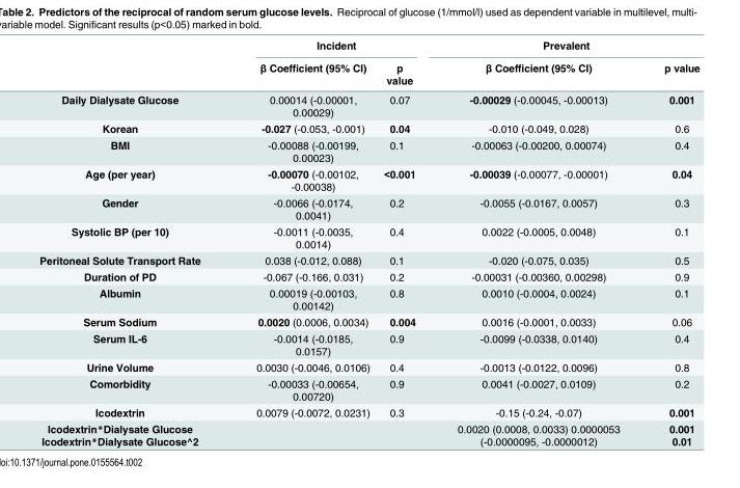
<table><thead><tr><td rowspan="2"></td><td colspan="2">Incident</td><td colspan="2">Prevalent</td></tr><tr><td>β Coefficient (95% CI)</td><td>p value</td><td>β Coefficient (95% CI)</td><td>p value</td></tr></thead><tbody><tr><td>Daily Dialysate Glucose</td><td>0.00014 (-0.00001, 0.00029)</td><td>0.07</td><td>-0.00029 (-0.00045, -0.00013)</td><td>0.001</td></tr><tr><td>Korean</td><td>-0.027 (-0.053, -0.001)</td><td>0.04</td><td>-0.010 (-0.049, 0.028)</td><td>0.6</td></tr><tr><td>BMI</td><td>-0.00088 (-0.00199, 0.00023)</td><td>0.1</td><td>-0.00063 (-0.00200, 0.00074)</td><td>0.4</td></tr><tr><td>Age (per year)</td><td>-0.00070 (-0.00102, -0.00038)</td><td>&lt;0.001</td><td>-0.00039 (-0.00077, -0.00001)</td><td>0.04</td></tr><tr><td>Gender</td><td>-0.0066 (-0.0174, 0.0041)</td><td>0.2</td><td>-0.0055 (-0.0167, 0.0057)</td><td>0.3</td></tr><tr><td>Systolic BP (per 10)</td><td>-0.0011 (-0.0035, 0.0014)</td><td>0.4</td><td>0.0022 (-0.0005, 0.0048)</td><td>0.1</td></tr><tr><td>Peritoneal Solute Transport Rate</td><td>0.038 (-0.012, 0.088)</td><td>0.1</td><td>-0.020 (-0.075, 0.035)</td><td>0.5</td></tr><tr><td>Duration of PD</td><td>-0.067 (-0.166, 0.031)</td><td>0.2</td><td>-0.00031 (-0.00360, 0.00298)</td><td>0.9</td></tr><tr><td>Albumin</td><td>0.00019 (-0.00103, 0.00142)</td><td>0.8</td><td>0.0010 (-0.0004, 0.0024)</td><td>0.1</td></tr><tr><td>Serum Sodium</td><td>0.0020 (0.0006, 0.0034)</td><td>0.004</td><td>0.0016 (-0.0001, 0.0033)</td><td>0.06</td></tr><tr><td>Serum IL-6</td><td>-0.0014 (-0.0185, 0.0157)</td><td>0.9</td><td>-0.0099 (-0.0338, 0.0140)</td><td>0.4</td></tr><tr><td>Urine Volume</td><td>0.0030 (-0.0046, 0.0106)</td><td>0.4</td><td>-0.0013 (-0.0122, 0.0096)</td><td>0.8</td></tr><tr><td>Comorbidity</td><td>-0.00033 (-0.00654, 0.00720)</td><td>0.9</td><td>0.0041 (-0.0027, 0.0109)</td><td>0.2</td></tr><tr><td>Icodextrin</td><td>0.0079 (-0.0072, 0.0231)</td><td>0.3</td><td>-0.15 (-0.24, -0.07)</td><td>0.001</td></tr><tr><td>Icodextrin*Dialysate Glucose Icodextrin*Dialysate Glucose^2</td><td></td><td></td><td>0.0020 (0.0008, 0.0033) 0.0000053 (-0.0000095, -0.0000012)</td><td>0.001 0.01</td></tr></tbody></table>